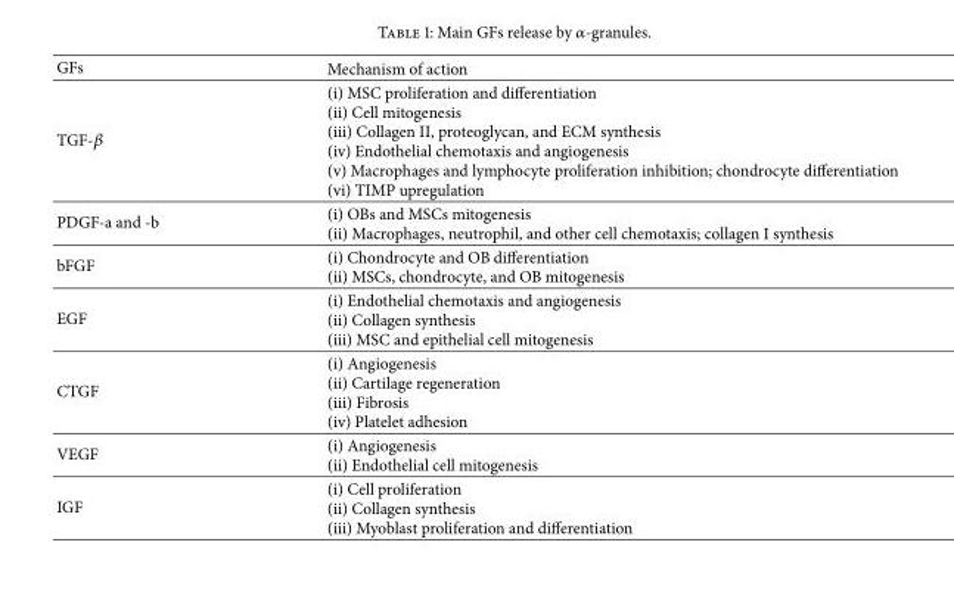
<table><tbody><tr><td>GFs</td><td>Mechanism of action</td></tr><tr><td>TGF-𝛽</td><td>(i) MSC proliferation and differentiation (ii) Cell mitogenesis (iii) Collagen II, proteoglycan, and ECM synthesis (iv) Endothelial chemotaxis and angiogenesis (v) Macrophages and lymphocyte proliferation inhibition; chondrocyte differentiation (vi) TIMP upregulation</td></tr><tr><td>PDGF-a and -b</td><td>(i) OBs and MSCs mitogenesis (ii) Macrophages, neutrophil, and other cell chemotaxis; collagen I synthesis</td></tr><tr><td>bFGF</td><td>(i) Chondrocyte and OB differentiation (ii) MSCs, chondrocyte, and OB mitogenesis</td></tr><tr><td>EGF</td><td>(i) Endothelial chemotaxis and angiogenesis (ii) Collagen synthesis (iii) MSC and epithelial cell mitogenesis</td></tr><tr><td>CTGF</td><td>(i) Angiogenesis (ii) Cartilage regeneration (iii) Fibrosis (iv) Platelet adhesion</td></tr><tr><td>VEGF</td><td>(i) Angiogenesis (ii) Endothelial cell mitogenesis</td></tr><tr><td>IGF</td><td>(i) Cell proliferation (ii) Collagen synthesis (iii) Myoblast proliferation and differentiation</td></tr></tbody></table>